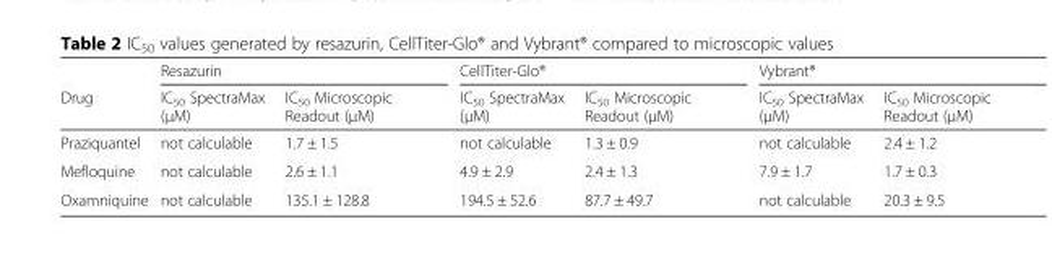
<table><thead><tr><td rowspan="2">Drug</td><td colspan="2">Resazurin</td><td colspan="2">CellTiter-Glo®</td><td colspan="2">Vybrant®</td></tr><tr><td>IC<sub>50</sub> SpectraMax (μM)</td><td>IC<sub>50</sub> Microscopic Readout (μM)</td><td>IC<sub>50</sub> SpectraMax (μM)</td><td>IC<sub>50</sub> Microscopic Readout (μM)</td><td>IC<sub>50</sub> SpectraMax (μM)</td><td>IC<sub>50</sub> Microscopic Readout (μM)</td></tr></thead><tbody><tr><td>Praziquantel</td><td>not calculable</td><td>1.7 ± 1.5</td><td>not calculable</td><td>1.3 ± 0.9</td><td>not calculable</td><td>2.4 ± 1.2</td></tr><tr><td>Mefloquine</td><td>not calculable</td><td>2.6 ± 1.1</td><td>4.9 ± 2.9</td><td>2.4 ± 1.3</td><td>7.9 ± 1.7</td><td>1.7 ± 0.3</td></tr><tr><td>Oxamniquine</td><td>not calculable</td><td>135.1 ± 128.8</td><td>194.5 ± 52.6</td><td>87.7 ± 49.7</td><td>not calculable</td><td>20.3 ± 9.5</td></tr></tbody></table>